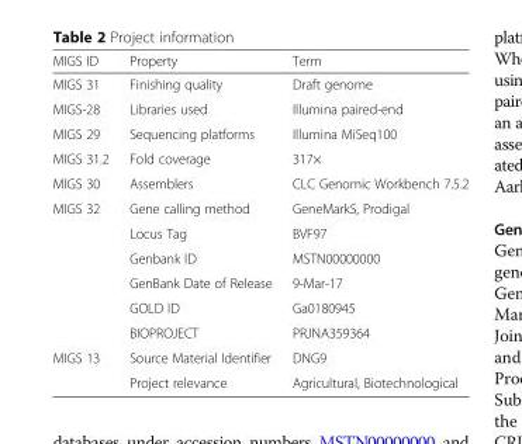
<table><thead><tr><td>MIGS ID</td><td>Property</td><td>Term</td></tr></thead><tbody><tr><td>MIGS 31</td><td>Finishing quality</td><td>Draft genome</td></tr><tr><td>MIGS-28</td><td>Libraries used</td><td>Illumina paired-end</td></tr><tr><td>MIGS 29</td><td>Sequencing platforms</td><td>Illumina MiSeq100</td></tr><tr><td>MIGS 31.2</td><td>Fold coverage</td><td>317×</td></tr><tr><td>MIGS 30</td><td>Assemblers</td><td>CLC Genomic Workbench 7.5.2</td></tr><tr><td rowspan="6">MIGS 32</td><td>Gene calling method</td><td>GeneMarkS, Prodigal</td></tr><tr><td>Locus Tag</td><td>BVF97</td></tr><tr><td>Genbank ID</td><td>MSTN00000000</td></tr><tr><td>GenBank Date of Release</td><td>9-Mar-17</td></tr><tr><td>GOLD ID</td><td>Ga0180945</td></tr><tr><td>BIOPROJECT</td><td>PRJNA359364</td></tr><tr><td rowspan="2">MIGS 13</td><td>Source Material Identifier</td><td>DNG9</td></tr><tr><td>Project relevance</td><td>Agricultural, Biotechnological</td></tr></tbody></table>